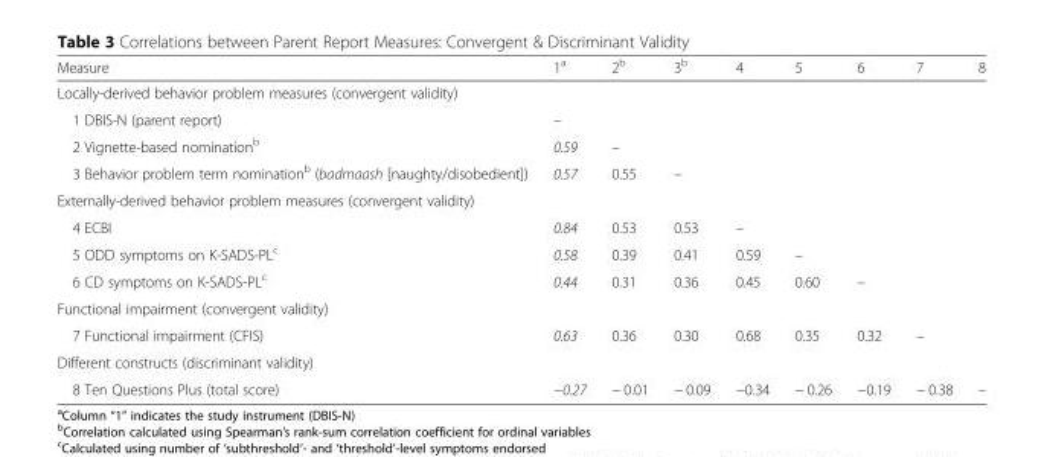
<table><thead><tr><td>Measure</td><td>1<sup>a</sup></td><td>2<sup>b</sup></td><td>3<sup>b</sup></td><td>4</td><td>5</td><td>6</td><td>7</td><td>8</td></tr></thead><tbody><tr><td colspan="9">Locally-derived behavior problem measures (convergent validity)</td></tr><tr><td>1 DBIS-N (parent report)</td><td>–</td><td></td><td></td><td></td><td></td><td></td><td></td><td></td></tr><tr><td>2 Vignette-based nomination<sup>b</sup></td><td>0.59</td><td>–</td><td></td><td></td><td></td><td></td><td></td><td></td></tr><tr><td>3 Behavior problem term nomination<sup>b</sup> (badmaash [naughty/disobedient])</td><td>0.57</td><td>0.55</td><td>–</td><td></td><td></td><td></td><td></td><td></td></tr><tr><td colspan="9">Externally-derived behavior problem measures (convergent validity)</td></tr><tr><td>4 ECBI</td><td>0.84</td><td>0.53</td><td>0.53</td><td>–</td><td></td><td></td><td></td><td></td></tr><tr><td>5 ODD symptoms on K-SADS-PL<sup>c</sup></td><td>0.58</td><td>0.39</td><td>0.41</td><td>0.59</td><td>–</td><td></td><td></td><td></td></tr><tr><td>6 CD symptoms on K-SADS-PL<sup>c</sup></td><td>0.44</td><td>0.31</td><td>0.36</td><td>0.45</td><td>0.60</td><td>–</td><td></td><td></td></tr><tr><td colspan="9">Functional impairment (convergent validity)</td></tr><tr><td>7 Functional impairment (CFIS)</td><td>0.63</td><td>0.36</td><td>0.30</td><td>0.68</td><td>0.35</td><td>0.32</td><td>–</td><td></td></tr><tr><td colspan="9">Different constructs (discriminant validity)</td></tr><tr><td>8 Ten Questions Plus (total score)</td><td>−0.27</td><td>− 0.01</td><td>− 0.09</td><td>−0.34</td><td>− 0.26</td><td>−0.19</td><td>− 0.38</td><td>–</td></tr></tbody></table>